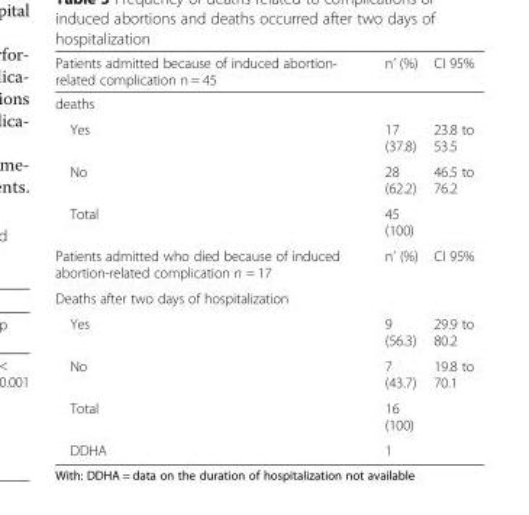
<table><thead><tr><td>Patients admitted because of induced abortion- related complication n = 45</td><td>n’ (%)</td><td>CI 95%</td></tr></thead><tbody><tr><td colspan="3">deaths</td></tr><tr><td>Yes</td><td>17 (37.8)</td><td>23.8 to 53.5</td></tr><tr><td>No</td><td>28 (62.2)</td><td>46.5 to 76.2</td></tr><tr><td>Total</td><td>45 (100)</td><td></td></tr><tr><td>Patients admitted who died because of induced abortion-related complication n = 17</td><td>n’ (%)</td><td>CI 95%</td></tr><tr><td colspan="3">Deaths after two days of hospitalization</td></tr><tr><td>Yes</td><td>9 (56.3)</td><td>29.9 to 80.2</td></tr><tr><td>No</td><td>7 (43.7)</td><td>19.8 to 70.1</td></tr><tr><td>Total</td><td>16 (100)</td><td></td></tr><tr><td>DDHA</td><td>1</td><td></td></tr></tbody></table>